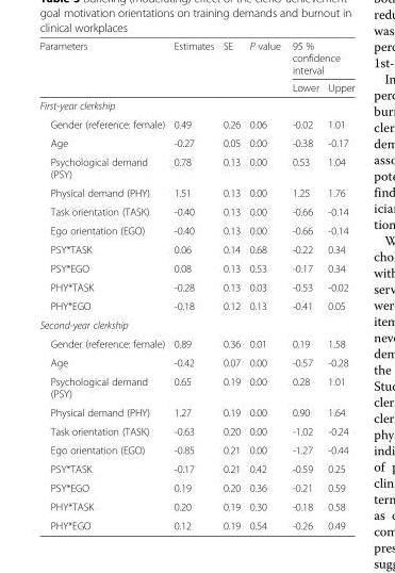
<table><thead><tr><td rowspan="2">Parameters</td><td rowspan="2">Estimates</td><td rowspan="2">SE</td><td rowspan="2">P value</td><td colspan="2">95 % confidence interval</td></tr><tr><td>Lower</td><td>Upper</td></tr></thead><tbody><tr><td colspan="6">First-year clerkship</td></tr><tr><td>Gender (reference: female)</td><td>0.49</td><td>0.26</td><td>0.06</td><td>-0.02</td><td>1.01</td></tr><tr><td>Age</td><td>-0.27</td><td>0.05</td><td>0.00</td><td>-0.38</td><td>-0.17</td></tr><tr><td>Psychological demand (PSY)</td><td>0.78</td><td>0.13</td><td>0.00</td><td>0.53</td><td>1.04</td></tr><tr><td>Physical demand (PHY)</td><td>1.51</td><td>0.13</td><td>0.00</td><td>1.25</td><td>1.76</td></tr><tr><td>Task orientation (TASK)</td><td>-0.40</td><td>0.13</td><td>0.00</td><td>-0.66</td><td>-0.14</td></tr><tr><td>Ego orientation (EGO)</td><td>-0.40</td><td>0.13</td><td>0.00</td><td>-0.66</td><td>-0.14</td></tr><tr><td>PSY*TASK</td><td>0.06</td><td>0.14</td><td>0.68</td><td>-0.22</td><td>0.34</td></tr><tr><td>PSY*EGO</td><td>0.08</td><td>0.13</td><td>0.53</td><td>-0.17</td><td>0.34</td></tr><tr><td>PHY*TASK</td><td>-0.28</td><td>0.13</td><td>0.03</td><td>-0.53</td><td>-0.02</td></tr><tr><td>PHY*EGO</td><td>-0.18</td><td>0.12</td><td>0.13</td><td>-0.41</td><td>0.05</td></tr><tr><td colspan="6">Second-year clerkship</td></tr><tr><td>Gender (reference: female)</td><td>0.89</td><td>0.36</td><td>0.01</td><td>0.19</td><td>1.58</td></tr><tr><td>Age</td><td>-0.42</td><td>0.07</td><td>0.00</td><td>-0.57</td><td>-0.28</td></tr><tr><td>Psychological demand (PSY)</td><td>0.65</td><td>0.19</td><td>0.00</td><td>0.28</td><td>1.01</td></tr><tr><td>Physical demand (PHY)</td><td>1.27</td><td>0.19</td><td>0.00</td><td>0.90</td><td>1.64</td></tr><tr><td>Task orientation (TASK)</td><td>-0.63</td><td>0.20</td><td>0.00</td><td>-1.02</td><td>-0.24</td></tr><tr><td>Ego orientation (EGO)</td><td>-0.85</td><td>0.21</td><td>0.00</td><td>-1.27</td><td>-0.44</td></tr><tr><td>PSY*TASK</td><td>-0.17</td><td>0.21</td><td>0.42</td><td>-0.59</td><td>0.25</td></tr><tr><td>PSY*EGO</td><td>0.19</td><td>0.20</td><td>0.36</td><td>-0.21</td><td>0.59</td></tr><tr><td>PHY*TASK</td><td>0.20</td><td>0.19</td><td>0.30</td><td>-0.18</td><td>0.58</td></tr><tr><td>PHY*EGO</td><td>0.12</td><td>0.19</td><td>0.54</td><td>-0.26</td><td>0.49</td></tr></tbody></table>